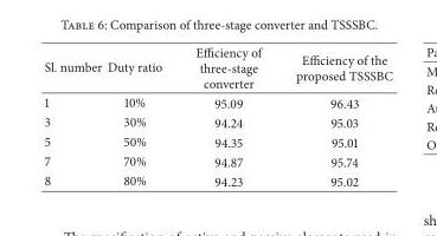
<table><thead><tr><td>Sl. number</td><td>Duty ratio</td><td>Efficiency of three-stage converter</td><td>Efficiency of the proposed TSSSBC</td></tr></thead><tbody><tr><td>1</td><td>10%</td><td>95.09</td><td>96.43</td></tr><tr><td>3</td><td>30%</td><td>94.24</td><td>95.03</td></tr><tr><td>5</td><td>50%</td><td>94.35</td><td>95.01</td></tr><tr><td>7</td><td>70%</td><td>94.87</td><td>95.74</td></tr><tr><td>8</td><td>80%</td><td>94.23</td><td>95.02</td></tr></tbody></table>